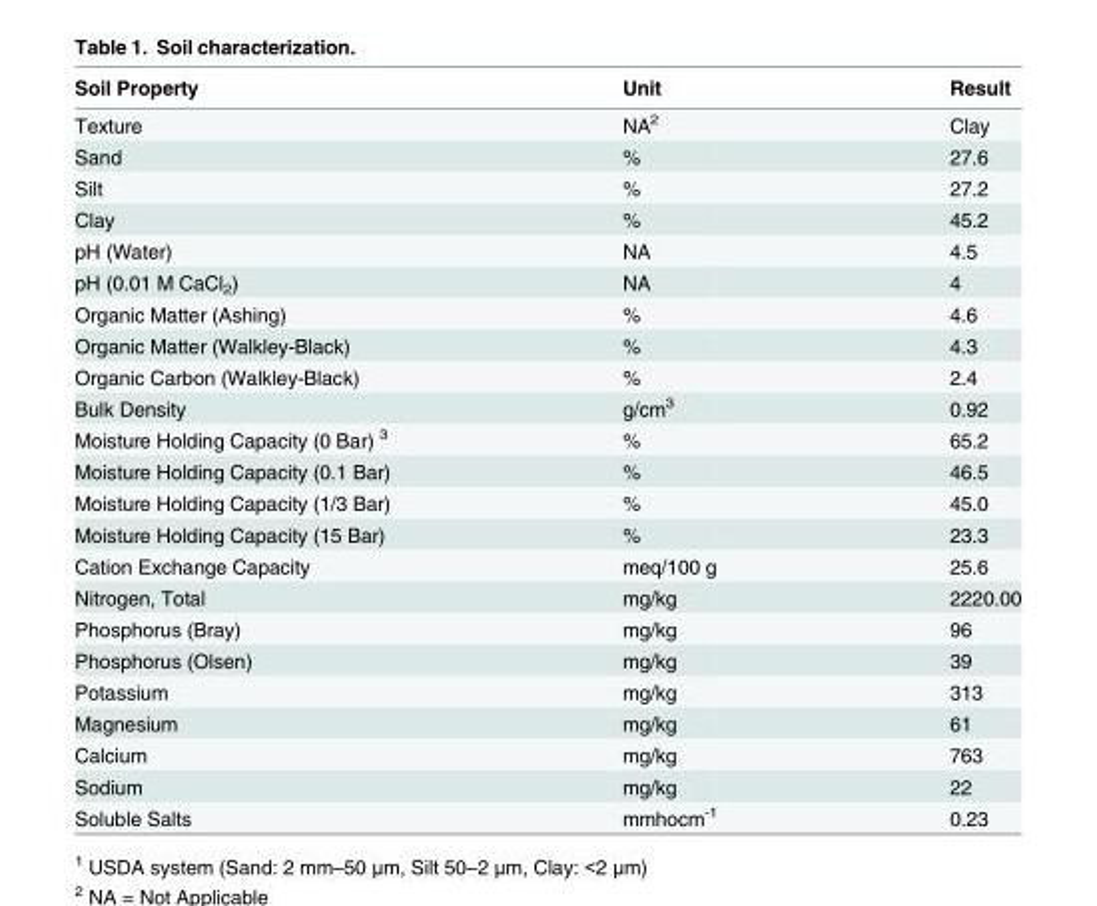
<table><thead><tr><td>Soil Property</td><td>Unit</td><td>Result</td></tr></thead><tbody><tr><td>Texture</td><td>NA<sup>2</sup></td><td>Clay</td></tr><tr><td>Sand</td><td>%</td><td>27.6</td></tr><tr><td>Silt</td><td>%</td><td>27.2</td></tr><tr><td>Clay</td><td>%</td><td>45.2</td></tr><tr><td>pH (Water)</td><td>NA</td><td>4.5</td></tr><tr><td>pH (0.01 M CaCl<sub>2</sub>)</td><td>NA</td><td>4</td></tr><tr><td>Organic Matter (Ashing)</td><td>%</td><td>4.6</td></tr><tr><td>Organic Matter (Walkley-Black)</td><td>%</td><td>4.3</td></tr><tr><td>Organic Carbon (Walkley-Black)</td><td>%</td><td>2.4</td></tr><tr><td>Bulk Density</td><td>g/cm<sup>3</sup></td><td>0.92</td></tr><tr><td>Moisture Holding Capacity (0 Bar) <sup>3</sup></td><td>%</td><td>65.2</td></tr><tr><td>Moisture Holding Capacity (0.1 Bar)</td><td>%</td><td>46.5</td></tr><tr><td>Moisture Holding Capacity (1/3 Bar)</td><td>%</td><td>45.0</td></tr><tr><td>Moisture Holding Capacity (15 Bar)</td><td>%</td><td>23.3</td></tr><tr><td>Cation Exchange Capacity</td><td>meq/100 g</td><td>25.6</td></tr><tr><td>Nitrogen, Total</td><td>mg/kg</td><td>2220.00</td></tr><tr><td>Phosphorus (Bray)</td><td>mg/kg</td><td>96</td></tr><tr><td>Phosphorus (Olsen)</td><td>mg/kg</td><td>39</td></tr><tr><td>Potassium</td><td>mg/kg</td><td>313</td></tr><tr><td>Magnesium</td><td>mg/kg</td><td>61</td></tr><tr><td>Calcium</td><td>mg/kg</td><td>763</td></tr><tr><td>Sodium</td><td>mg/kg</td><td>22</td></tr><tr><td>Soluble Salts</td><td>mmhocm<sup>-1</sup></td><td>0.23</td></tr></tbody></table>